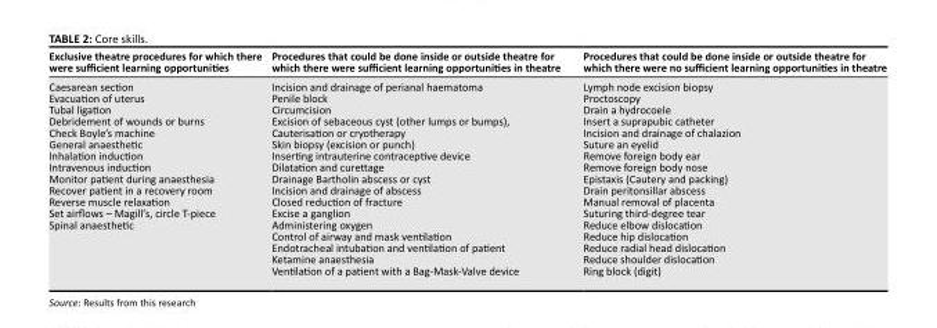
<table><thead><tr><td>Exclusive theatre procedures for which there were sufficient learning opportunities</td><td>Procedures that could be done inside or outside theatre for which there were sufficient learning opportunities in theatre</td><td>Procedures that could be done inside or outside theatre for which there were no sufficient learning opportunities in theatre</td></tr></thead><tbody><tr><td>Caesarean section Evacuation of uterus Tubal ligation Debridement of wounds or burns Check Boyle’s machine General anaesthetic Inhalation induction Intravenous induction Monitor patient during anaesthesia Recover patient in a recovery room Reverse muscle relaxation Set airflows – Magill’s, circle T-piece Spinal anaesthetic</td><td>Incision and drainage of perianal haematoma Penile block Circumcision Excision of sebaceous cyst (other lumps or bumps), Cauterisation or cryotherapy Skin biopsy (excision or punch) Inserting intrauterine contraceptive device Dilatation and curettage Drainage Bartholin abscess or cyst Incision and drainage of abscess Closed reduction of fracture Excise a ganglion Administering oxygen Control of airway and mask ventilation Endotracheal intubation and ventilation of patient Ketamine anaesthesia Ventilation of a patient with a Bag-Mask-Valve device</td><td>Lymph node excision biopsy Proctoscopy Drain a hydrocoele Insert a suprapubic catheter Incision and drainage of chalazion Suture an eyelid Remove foreign body ear Remove foreign body nose Epistaxis (Cautery and packing) Drain peritonsillar abscess Manual removal of placenta Suturing third-degree tear Reduce elbow dislocation Reduce hip dislocation Reduce radial head dislocation Reduce shoulder dislocation Ring block (digit)</td></tr></tbody></table>